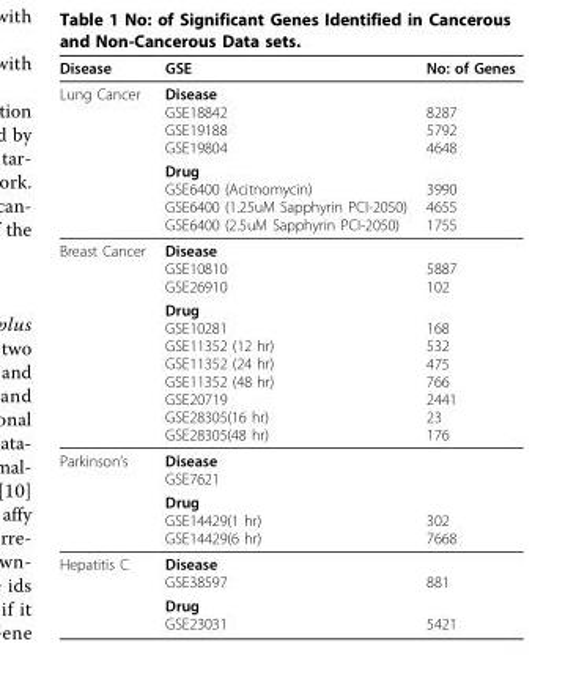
<table><thead><tr><td>Disease</td><td>GSE</td><td>No: of Genes</td></tr></thead><tbody><tr><td rowspan="2">Lung Cancer</td><td>Disease GSE18842 GSE19188 GSE19804</td><td>8287 5792 4648</td></tr><tr><td>Drug GSE6400 (Acitnomycin) GSE6400 (1.25uM Sapphyrin PCI-2050) GSE6400 (2.5uM Sapphyrin PCI-2050)</td><td>3990 4655 1755</td></tr><tr><td rowspan="2">Breast Cancer</td><td>Disease GSE10810 GSE26910</td><td>5887 102</td></tr><tr><td>Drug GSE10281 GSE11352 (12 hr) GSE11352 (24 hr) GSE11352 (48 hr) GSE20719 GSE28305(16 hr) GSE28305(48 hr)</td><td>168 532 475 766 2441 23 176</td></tr><tr><td rowspan="2">Parkinson’s</td><td>Disease GSE7621</td><td></td></tr><tr><td>Drug GSE14429(1 hr) GSE14429(6 hr)</td><td>302 7668</td></tr><tr><td rowspan="2">Hepatitis C</td><td>Disease GSE38597</td><td>881</td></tr><tr><td>Drug GSE23031</td><td>5421</td></tr></tbody></table>